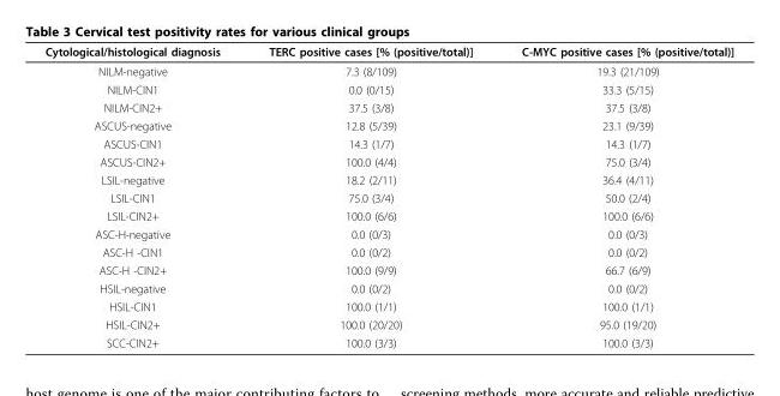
<table><thead><tr><td>Cytological/histological diagnosis</td><td>TERC positive cases [% (positive/total)]</td><td>C-MYC positive cases [% (positive/total)]</td></tr></thead><tbody><tr><td>NILM-negative</td><td>7.3 (8/109)</td><td>19.3 (21/109)</td></tr><tr><td>NILM-CIN1</td><td>0.0 (0/15)</td><td>33.3 (5/15)</td></tr><tr><td>NILM-CIN2+</td><td>37.5 (3/8)</td><td>37.5 (3/8)</td></tr><tr><td>ASCUS-negative</td><td>12.8 (5/39)</td><td>23.1 (9/39)</td></tr><tr><td>ASCUS-CIN1</td><td>14.3 (1/7)</td><td>14.3 (1/7)</td></tr><tr><td>ASCUS-CIN2+</td><td>100.0 (4/4)</td><td>75.0 (3/4)</td></tr><tr><td>LSIL-negative</td><td>18.2 (2/11)</td><td>36.4 (4/11)</td></tr><tr><td>LSIL-CIN1</td><td>75.0 (3/4)</td><td>50.0 (2/4)</td></tr><tr><td>LSIL-CIN2+</td><td>100.0 (6/6)</td><td>100.0 (6/6)</td></tr><tr><td>ASC-H-negative</td><td>0.0 (0/3)</td><td>0.0 (0/3)</td></tr><tr><td>ASC-H -CIN1</td><td>0.0 (0/2)</td><td>0.0 (0/2)</td></tr><tr><td>ASC-H -CIN2+</td><td>100.0 (9/9)</td><td>66.7 (6/9)</td></tr><tr><td>HSIL-negative</td><td>0.0 (0/2)</td><td>0.0 (0/2)</td></tr><tr><td>HSIL-CIN1</td><td>100.0 (1/1)</td><td>100.0 (1/1)</td></tr><tr><td>HSIL-CIN2+</td><td>100.0 (20/20)</td><td>95.0 (19/20)</td></tr><tr><td>SCC-CIN2+</td><td>100.0 (3/3)</td><td>100.0 (3/3)</td></tr></tbody></table>